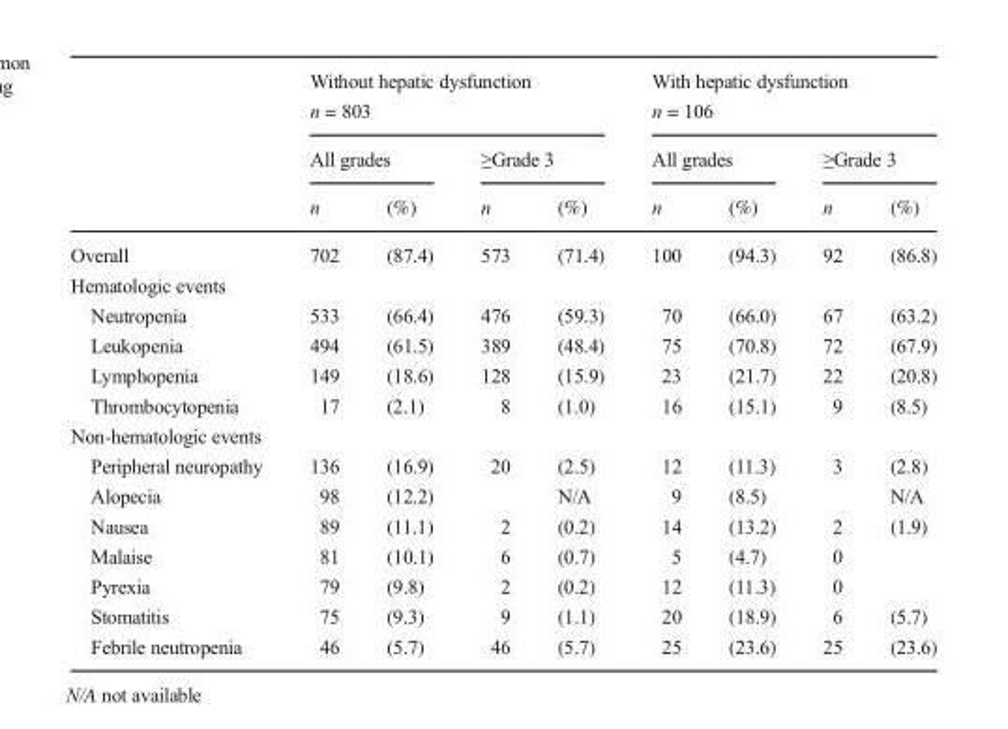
<table><thead><tr><td rowspan="3"></td><td colspan="4">Without hepatic dysfunction n = 803</td><td colspan="4">With hepatic dysfunction n = 106</td></tr><tr><td colspan="2">All grades</td><td colspan="2">≥Grade 3</td><td colspan="2">All grades</td><td colspan="2">≥Grade 3</td></tr><tr><td>n</td><td>(%)</td><td>n</td><td>(%)</td><td>n</td><td>(%)</td><td>n</td><td>(%)</td></tr></thead><tbody><tr><td>Overall</td><td>702</td><td>(87.4)</td><td>573</td><td>(71.4)</td><td>100</td><td>(94.3)</td><td>92</td><td>(86.8)</td></tr><tr><td colspan="9">Hematologic events</td></tr><tr><td>Neutropenia</td><td>533</td><td>(66.4)</td><td>476</td><td>(59.3)</td><td>70</td><td>(66.0)</td><td>67</td><td>(63.2)</td></tr><tr><td>Leukopenia</td><td>494</td><td>(61.5)</td><td>389</td><td>(48.4)</td><td>75</td><td>(70.8)</td><td>72</td><td>(67.9)</td></tr><tr><td>Lymphopenia</td><td>149</td><td>(18.6)</td><td>128</td><td>(15.9)</td><td>23</td><td>(21.7)</td><td>22</td><td>(20.8)</td></tr><tr><td>Thrombocytopenia</td><td>17</td><td>(2.1)</td><td>8</td><td>(1.0)</td><td>16</td><td>(15.1)</td><td>9</td><td>(8.5)</td></tr><tr><td colspan="9">Non-hematologic events</td></tr><tr><td>Peripheral neuropathy</td><td>136</td><td>(16.9)</td><td>20</td><td>(2.5)</td><td>12</td><td>(11.3)</td><td>3</td><td>(2.8)</td></tr><tr><td>Alopecia</td><td>98</td><td>(12.2)</td><td></td><td>N/A</td><td>9</td><td>(8.5)</td><td></td><td>N/A</td></tr><tr><td>Nausea</td><td>89</td><td>(11.1)</td><td>2</td><td>(0.2)</td><td>14</td><td>(13.2)</td><td>2</td><td>(1.9)</td></tr><tr><td>Malaise</td><td>81</td><td>(10.1)</td><td>6</td><td>(0.7)</td><td>5</td><td>(4.7)</td><td>0</td><td></td></tr><tr><td>Pyrexia</td><td>79</td><td>(9.8)</td><td>2</td><td>(0.2)</td><td>12</td><td>(11.3)</td><td>0</td><td></td></tr><tr><td>Stomatitis</td><td>75</td><td>(9.3)</td><td>9</td><td>(1.1)</td><td>20</td><td>(18.9)</td><td>6</td><td>(5.7)</td></tr><tr><td>Febrile neutropenia</td><td>46</td><td>(5.7)</td><td>46</td><td>(5.7)</td><td>25</td><td>(23.6)</td><td>25</td><td>(23.6)</td></tr></tbody></table>